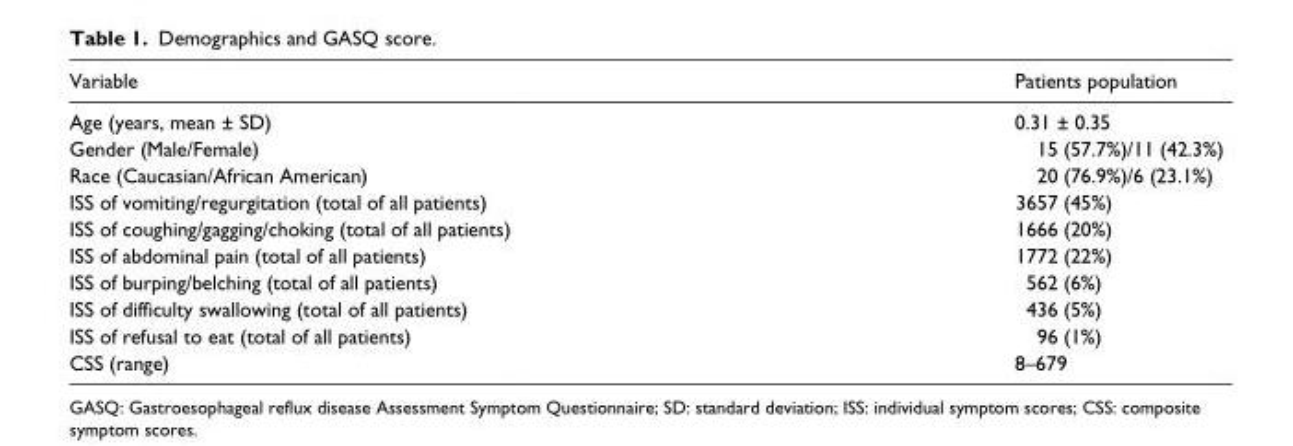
<table><thead><tr><td>Variable</td><td>Patients population</td></tr></thead><tbody><tr><td>Age (years, mean ± SD)</td><td>0.31 ± 0.35</td></tr><tr><td>Gender (Male/Female)</td><td>15 (57.7%)/11 (42.3%)</td></tr><tr><td>Race (Caucasian/African American)</td><td>20 (76.9%)/6 (23.1%)</td></tr><tr><td>ISS of vomiting/regurgitation (total of all patients)</td><td>3657 (45%)</td></tr><tr><td>ISS of coughing/gagging/choking (total of all patients)</td><td>1666 (20%)</td></tr><tr><td>ISS of abdominal pain (total of all patients)</td><td>1772 (22%)</td></tr><tr><td>ISS of burping/belching (total of all patients)</td><td>562 (6%)</td></tr><tr><td>ISS of difficulty swallowing (total of all patients)</td><td>436 (5%)</td></tr><tr><td>ISS of refusal to eat (total of all patients)</td><td>96 (1%)</td></tr><tr><td>CSS (range)</td><td>8–679</td></tr></tbody></table>